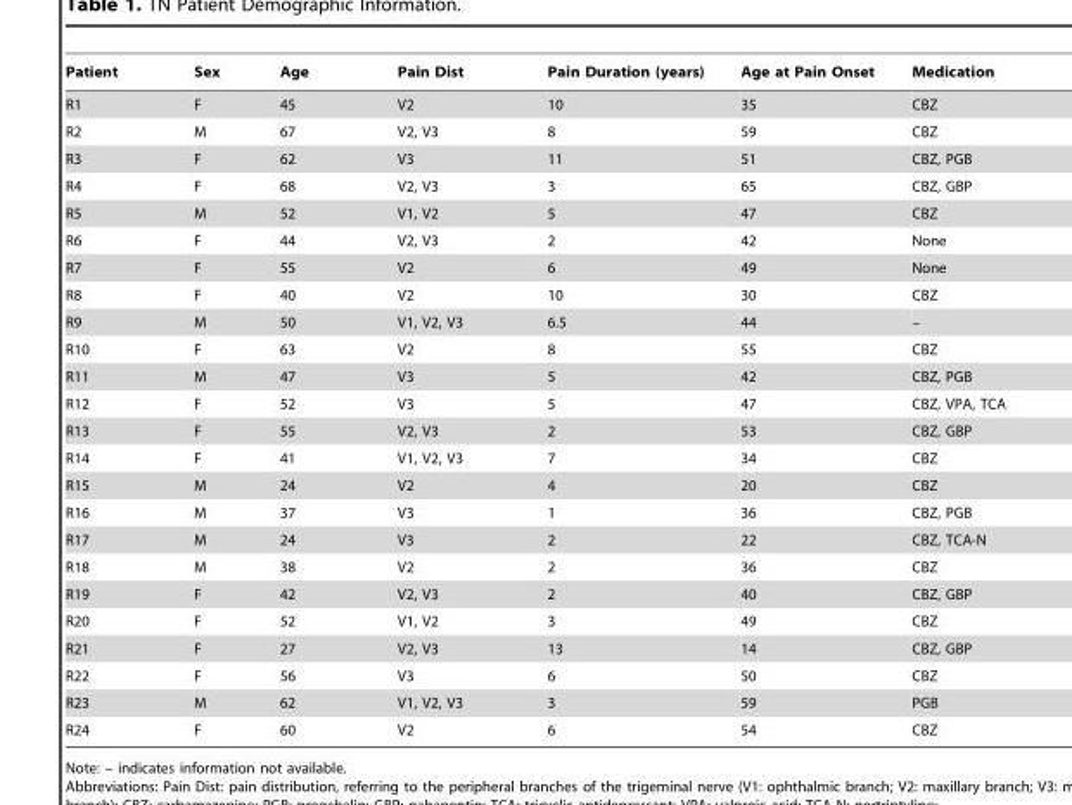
<table><thead><tr><td>Patient</td><td>Sex</td><td>Age</td><td>Pain Dist</td><td>Pain Duration (years)</td><td>Age at Pain Onset</td><td>Medication</td></tr></thead><tbody><tr><td>R1</td><td>F</td><td>45</td><td>V2</td><td>10</td><td>35</td><td>CBZ</td></tr><tr><td>R2</td><td>M</td><td>67</td><td>V2, V3</td><td>8</td><td>59</td><td>CBZ</td></tr><tr><td>R3</td><td>F</td><td>62</td><td>V3</td><td>11</td><td>51</td><td>CBZ, PGB</td></tr><tr><td>R4</td><td>F</td><td>68</td><td>V2, V3</td><td>3</td><td>65</td><td>CBZ, GBP</td></tr><tr><td>R5</td><td>M</td><td>52</td><td>V1, V2</td><td>5</td><td>47</td><td>CBZ</td></tr><tr><td>R6</td><td>F</td><td>44</td><td>V2, V3</td><td>2</td><td>42</td><td>None</td></tr><tr><td>R7</td><td>F</td><td>55</td><td>V2</td><td>6</td><td>49</td><td>None</td></tr><tr><td>R8</td><td>F</td><td>40</td><td>V2</td><td>10</td><td>30</td><td>CBZ</td></tr><tr><td>R9</td><td>M</td><td>50</td><td>V1, V2, V3</td><td>6.5</td><td>44</td><td>–</td></tr><tr><td>R10</td><td>F</td><td>63</td><td>V2</td><td>8</td><td>55</td><td>CBZ</td></tr><tr><td>R11</td><td>M</td><td>47</td><td>V3</td><td>5</td><td>42</td><td>CBZ, PGB</td></tr><tr><td>R12</td><td>F</td><td>52</td><td>V3</td><td>5</td><td>47</td><td>CBZ, VPA, TCA</td></tr><tr><td>R13</td><td>F</td><td>55</td><td>V2, V3</td><td>2</td><td>53</td><td>CBZ, GBP</td></tr><tr><td>R14</td><td>F</td><td>41</td><td>V1, V2, V3</td><td>7</td><td>34</td><td>CBZ</td></tr><tr><td>R15</td><td>M</td><td>24</td><td>V2</td><td>4</td><td>20</td><td>CBZ</td></tr><tr><td>R16</td><td>M</td><td>37</td><td>V3</td><td>1</td><td>36</td><td>CBZ, PGB</td></tr><tr><td>R17</td><td>M</td><td>24</td><td>V3</td><td>2</td><td>22</td><td>CBZ, TCA-N</td></tr><tr><td>R18</td><td>M</td><td>38</td><td>V2</td><td>2</td><td>36</td><td>CBZ</td></tr><tr><td>R19</td><td>F</td><td>42</td><td>V2, V3</td><td>2</td><td>40</td><td>CBZ, GBP</td></tr><tr><td>R20</td><td>F</td><td>52</td><td>V1, V2</td><td>3</td><td>49</td><td>CBZ</td></tr><tr><td>R21</td><td>F</td><td>27</td><td>V2, V3</td><td>13</td><td>14</td><td>CBZ, GBP</td></tr><tr><td>R22</td><td>F</td><td>56</td><td>V3</td><td>6</td><td>50</td><td>CBZ</td></tr><tr><td>R23</td><td>M</td><td>62</td><td>V1, V2, V3</td><td>3</td><td>59</td><td>PGB</td></tr><tr><td>R24</td><td>F</td><td>60</td><td>V2</td><td>6</td><td>54</td><td>CBZ</td></tr></tbody></table>